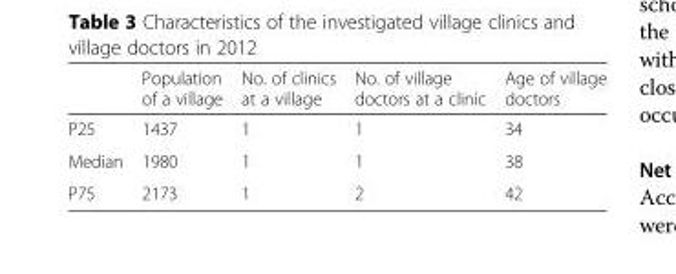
<table><thead><tr><td></td><td>Population of a village</td><td>No. of clinics at a village</td><td>No. of village doctors at a clinic</td><td>Age of village doctors</td></tr></thead><tbody><tr><td>P25</td><td>1437</td><td>1</td><td>1</td><td>34</td></tr><tr><td>Median</td><td>1980</td><td>1</td><td>1</td><td>38</td></tr><tr><td>P75</td><td>2173</td><td>1</td><td>2</td><td>42</td></tr></tbody></table>